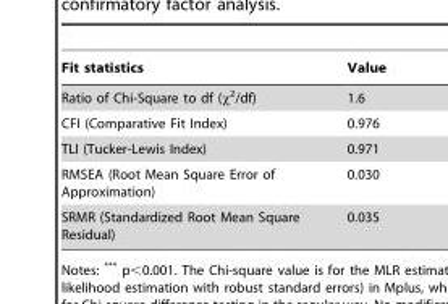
<table><thead><tr><td>Fit statistics</td><td>Value</td></tr></thead><tbody><tr><td>Ratio of Chi-Square to df (χ<sup>2</sup>/df)</td><td>1.6</td></tr><tr><td>CFI (Comparative Fit Index)</td><td>0.976</td></tr><tr><td>TLI (Tucker-Lewis Index)</td><td>0.971</td></tr><tr><td>RMSEA (Root Mean Square Error of Approximation)</td><td>0.030</td></tr><tr><td>SRMR (Standardized Root Mean Square Residual)</td><td>0.035</td></tr></tbody></table>